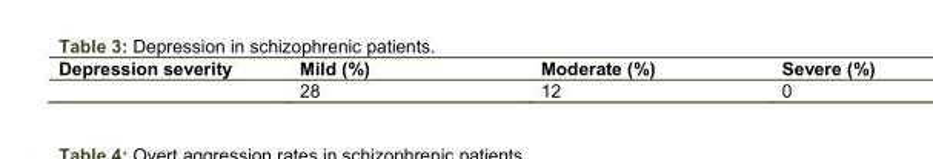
<table><thead><tr><td>Depression severity</td><td>Mild (%)</td><td>Moderate (%)</td><td>Severe (%)</td></tr></thead><tbody><tr><td></td><td>28</td><td>12</td><td>0</td></tr></tbody></table>